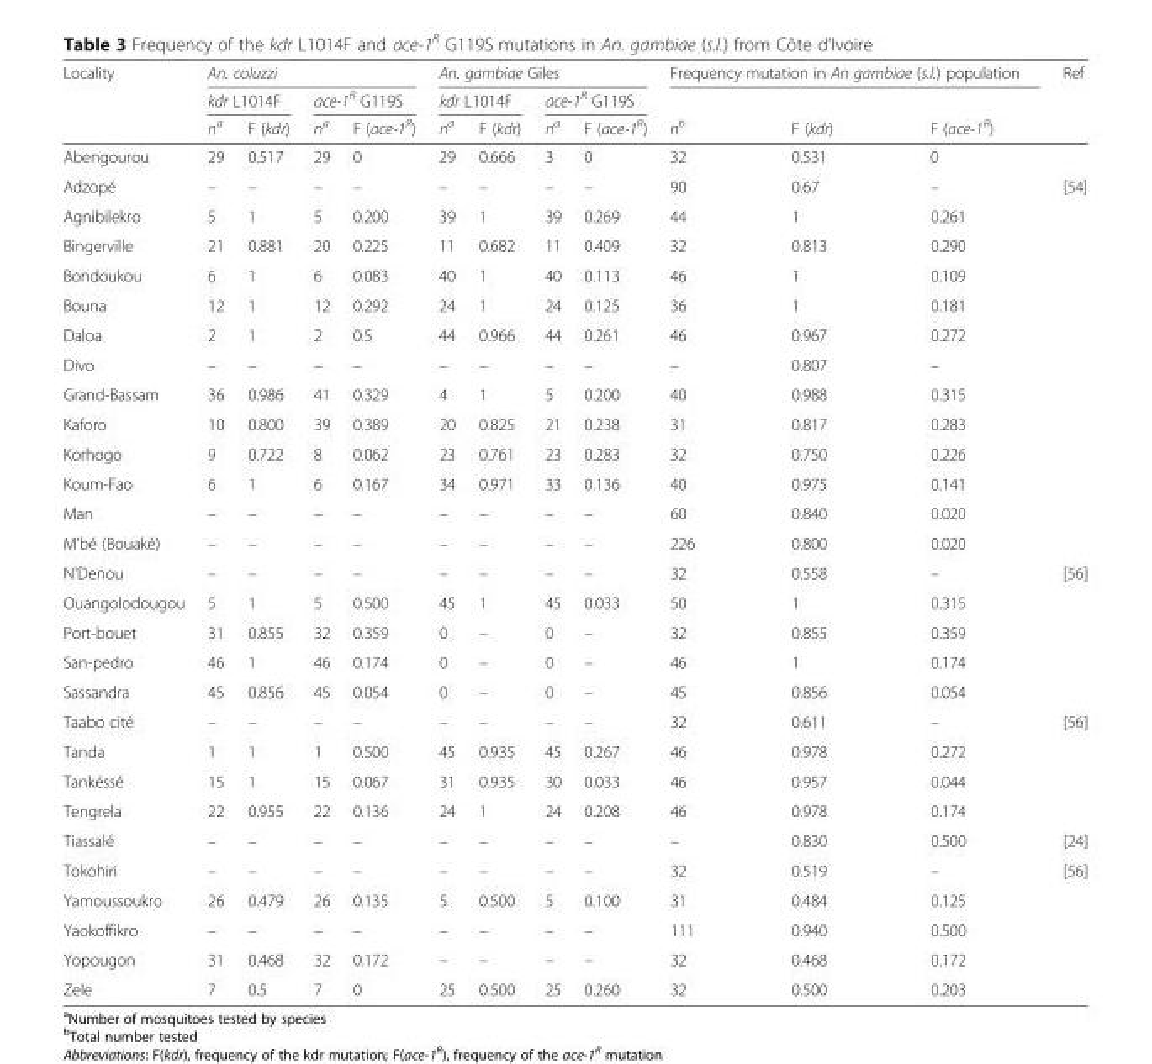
<table><thead><tr><td rowspan="3">Locality</td><td colspan="4">An. coluzzi</td><td colspan="4">An. gambiae Giles</td><td colspan="3">Frequency mutation in An gambiae (s.l.) population</td><td rowspan="2">Ref</td></tr><tr><td colspan="2">kdr L1014F</td><td colspan="2">ace-1<sup>R</sup> G119S</td><td colspan="2">kdr L1014F</td><td colspan="2">ace-1<sup>R</sup> G119S</td><td rowspan="2">n<sup>b</sup></td><td rowspan="2">F (kdr)</td><td></td></tr><tr><td>n<sup>a</sup></td><td>F (kdr)</td><td>n<sup>a</sup></td><td>F (ace-1<sup>R</sup>)</td><td>n<sup>a</sup></td><td>F (kdr)</td><td>n<sup>a</sup></td><td>F (ace-1<sup>R</sup>)</td><td colspan="2">F (ace-1<sup>R</sup>)</td></tr></thead><tbody><tr><td>Abengourou</td><td>29</td><td>0.517</td><td>29</td><td>0</td><td>29</td><td>0.666</td><td>3</td><td>0</td><td>32</td><td>0.531</td><td>0</td><td></td></tr><tr><td>Adzopé</td><td>–</td><td>–</td><td>–</td><td>–</td><td>–</td><td>–</td><td>–</td><td>–</td><td>90</td><td>0.67</td><td>–</td><td>[54]</td></tr><tr><td>Agnibilekro</td><td>5</td><td>1</td><td>5</td><td>0.200</td><td>39</td><td>1</td><td>39</td><td>0.269</td><td>44</td><td>1</td><td>0.261</td><td></td></tr><tr><td>Bingerville</td><td>21</td><td>0.881</td><td>20</td><td>0.225</td><td>11</td><td>0.682</td><td>11</td><td>0.409</td><td>32</td><td>0.813</td><td>0.290</td><td></td></tr><tr><td>Bondoukou</td><td>6</td><td>1</td><td>6</td><td>0.083</td><td>40</td><td>1</td><td>40</td><td>0.113</td><td>46</td><td>1</td><td>0.109</td><td></td></tr><tr><td>Bouna</td><td>12</td><td>1</td><td>12</td><td>0.292</td><td>24</td><td>1</td><td>24</td><td>0.125</td><td>36</td><td>1</td><td>0.181</td><td></td></tr><tr><td>Daloa</td><td>2</td><td>1</td><td>2</td><td>0.5</td><td>44</td><td>0.966</td><td>44</td><td>0.261</td><td>46</td><td>0.967</td><td>0.272</td><td></td></tr><tr><td>Divo</td><td>–</td><td>–</td><td>–</td><td>–</td><td>–</td><td>–</td><td>–</td><td>–</td><td>–</td><td>0.807</td><td>–</td><td></td></tr><tr><td>Grand-Bassam</td><td>36</td><td>0.986</td><td>41</td><td>0.329</td><td>4</td><td>1</td><td>5</td><td>0.200</td><td>40</td><td>0.988</td><td>0.315</td><td></td></tr><tr><td>Kaforo</td><td>10</td><td>0.800</td><td>39</td><td>0.389</td><td>20</td><td>0.825</td><td>21</td><td>0.238</td><td>31</td><td>0.817</td><td>0.283</td><td></td></tr><tr><td>Korhogo</td><td>9</td><td>0.722</td><td>8</td><td>0.062</td><td>23</td><td>0.761</td><td>23</td><td>0.283</td><td>32</td><td>0.750</td><td>0.226</td><td></td></tr><tr><td>Koum-Fao</td><td>6</td><td>1</td><td>6</td><td>0.167</td><td>34</td><td>0.971</td><td>33</td><td>0.136</td><td>40</td><td>0.975</td><td>0.141</td><td></td></tr><tr><td>Man</td><td>–</td><td>–</td><td>–</td><td>–</td><td>–</td><td>–</td><td>–</td><td>–</td><td>60</td><td>0.840</td><td>0.020</td><td></td></tr><tr><td>M&#x27;bé (Bouaké)</td><td>–</td><td>–</td><td>–</td><td>–</td><td>–</td><td>–</td><td>–</td><td>–</td><td>226</td><td>0.800</td><td>0.020</td><td></td></tr><tr><td>N&#x27;Denou</td><td>–</td><td>–</td><td>–</td><td>–</td><td>–</td><td>–</td><td>–</td><td>–</td><td>32</td><td>0.558</td><td>–</td><td>[56]</td></tr><tr><td>Ouangolodougou</td><td>5</td><td>1</td><td>5</td><td>0.500</td><td>45</td><td>1</td><td>45</td><td>0.033</td><td>50</td><td>1</td><td>0.315</td><td></td></tr><tr><td>Port-bouet</td><td>31</td><td>0.855</td><td>32</td><td>0.359</td><td>0</td><td>–</td><td>0</td><td>–</td><td>32</td><td>0.855</td><td>0.359</td><td></td></tr><tr><td>San-pedro</td><td>46</td><td>1</td><td>46</td><td>0.174</td><td>0</td><td>–</td><td>0</td><td>–</td><td>46</td><td>1</td><td>0.174</td><td></td></tr><tr><td>Sassandra</td><td>45</td><td>0.856</td><td>45</td><td>0.054</td><td>0</td><td>–</td><td>0</td><td>–</td><td>45</td><td>0.856</td><td>0.054</td><td></td></tr><tr><td>Taabo cité</td><td>–</td><td>–</td><td>–</td><td>–</td><td>–</td><td>–</td><td>–</td><td>–</td><td>32</td><td>0.611</td><td>–</td><td>[56]</td></tr><tr><td>Tanda</td><td>1</td><td>1</td><td>1</td><td>0.500</td><td>45</td><td>0.935</td><td>45</td><td>0.267</td><td>46</td><td>0.978</td><td>0.272</td><td></td></tr><tr><td>Tankéssé</td><td>15</td><td>1</td><td>15</td><td>0.067</td><td>31</td><td>0.935</td><td>30</td><td>0.033</td><td>46</td><td>0.957</td><td>0.044</td><td></td></tr><tr><td>Tengrela</td><td>22</td><td>0.955</td><td>22</td><td>0.136</td><td>24</td><td>1</td><td>24</td><td>0.208</td><td>46</td><td>0.978</td><td>0.174</td><td></td></tr><tr><td>Tiassalé</td><td>–</td><td>–</td><td>–</td><td>–</td><td>–</td><td>–</td><td>–</td><td>–</td><td>–</td><td>0.830</td><td>0.500</td><td>[24]</td></tr><tr><td>Tokohiri</td><td>–</td><td>–</td><td>–</td><td>–</td><td>–</td><td>–</td><td>–</td><td>–</td><td>32</td><td>0.519</td><td>–</td><td>[56]</td></tr><tr><td>Yamoussoukro</td><td>26</td><td>0.479</td><td>26</td><td>0.135</td><td>5</td><td>0.500</td><td>5</td><td>0.100</td><td>31</td><td>0.484</td><td>0.125</td><td></td></tr><tr><td>Yaokoffikro</td><td>–</td><td>–</td><td>–</td><td>–</td><td>–</td><td>–</td><td>–</td><td>–</td><td>111</td><td>0.940</td><td>0.500</td><td></td></tr><tr><td>Yopougon</td><td>31</td><td>0.468</td><td>32</td><td>0.172</td><td>–</td><td>–</td><td>–</td><td>–</td><td>32</td><td>0.468</td><td>0.172</td><td></td></tr><tr><td>Zele</td><td>7</td><td>0.5</td><td>7</td><td>0</td><td>25</td><td>0.500</td><td>25</td><td>0.260</td><td>32</td><td>0.500</td><td>0.203</td><td></td></tr></tbody></table>